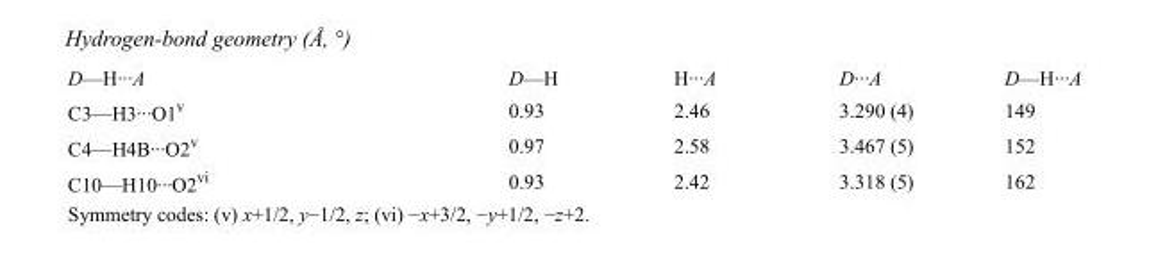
<table><tbody><tr><td>D—H···A</td><td>D—H</td><td>H···A</td><td>D···A</td><td>D—H···A</td></tr><tr><td>C3—H3···O1<sup>v</sup></td><td>0.93</td><td>2.46</td><td>3.290 (4)</td><td>149</td></tr><tr><td>C4—H4B···O2<sup>v</sup></td><td>0.97</td><td>2.58</td><td>3.467 (5)</td><td>152</td></tr><tr><td>C10—H10···O2<sup>vi</sup></td><td>0.93</td><td>2.42</td><td>3.318 (5)</td><td>162</td></tr></tbody></table>